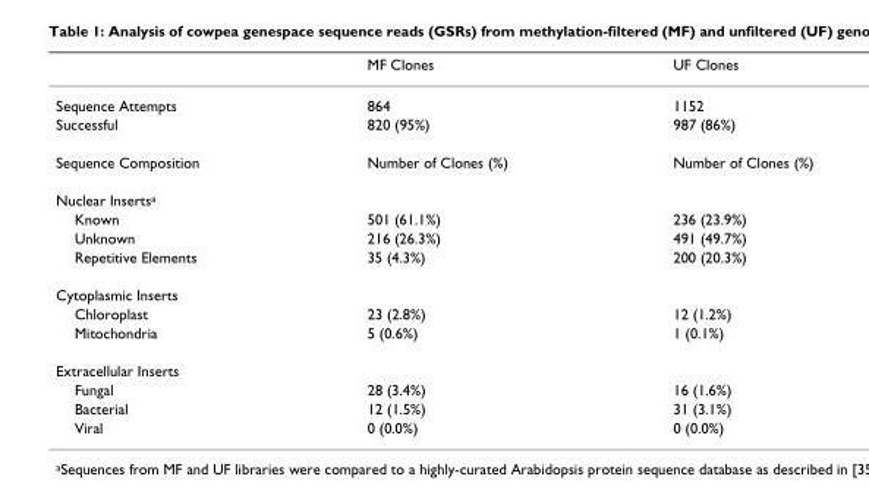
<table><thead><tr><td></td><td>MF Clones</td><td>UF Clones</td></tr></thead><tbody><tr><td>Sequence Attempts</td><td>864</td><td>1152</td></tr><tr><td>Successful</td><td>820 (95%)</td><td>987 (86%)</td></tr><tr><td>Sequence Composition</td><td>Number of Clones (%)</td><td>Number of Clones (%)</td></tr><tr><td colspan="3">Nuclear Inserts<sup>a</sup></td></tr><tr><td>Known</td><td>501 (61.1%)</td><td>236 (23.9%)</td></tr><tr><td>Unknown</td><td>216 (26.3%)</td><td>491 (49.7%)</td></tr><tr><td>Repetitive Elements</td><td>35 (4.3%)</td><td>200 (20.3%)</td></tr><tr><td colspan="3">Cytoplasmic Inserts</td></tr><tr><td>Chloroplast</td><td>23 (2.8%)</td><td>12 (1.2%)</td></tr><tr><td>Mitochondria</td><td>5 (0.6%)</td><td>1 (0.1%)</td></tr><tr><td colspan="3">Extracellular Inserts</td></tr><tr><td>Fungal</td><td>28 (3.4%)</td><td>16 (1.6%)</td></tr><tr><td>Bacterial</td><td>12 (1.5%)</td><td>31 (3.1%)</td></tr><tr><td>Viral</td><td>0 (0.0%)</td><td>0 (0.0%)</td></tr></tbody></table>